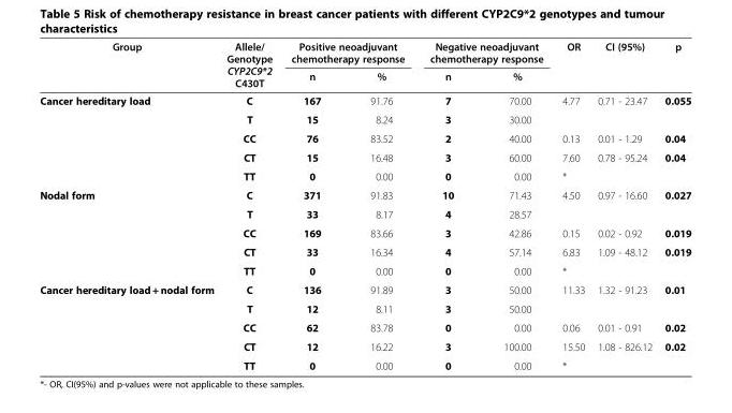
<table><thead><tr><td rowspan="2">Group</td><td rowspan="2">Allele/ Genotype CYP2C9*2 C430T</td><td colspan="2">Positive neoadjuvant chemotherapy response</td><td colspan="2">Negative neoadjuvant chemotherapy response</td><td rowspan="2">OR</td><td rowspan="2">CI (95%)</td><td rowspan="2">p</td></tr><tr><td>n</td><td>%</td><td>n</td><td>%</td></tr></thead><tbody><tr><td rowspan="5">Cancer hereditary load</td><td>C</td><td>167</td><td>91.76</td><td>7</td><td>70.00</td><td rowspan="2">4.77</td><td rowspan="2">0.71 - 23.47</td><td>0.055</td></tr><tr><td>T</td><td>15</td><td>8.24</td><td>3</td><td>30.00</td><td></td></tr><tr><td>CC</td><td>76</td><td>83.52</td><td>2</td><td>40.00</td><td>0.13</td><td>0.01 - 1.29</td><td>0.04</td></tr><tr><td>CT</td><td>15</td><td>16.48</td><td>3</td><td>60.00</td><td>7.60</td><td>0.78 - 95.24</td><td>0.04</td></tr><tr><td>TT</td><td>0</td><td>0.00</td><td>0</td><td>0.00</td><td>*</td><td></td><td></td></tr><tr><td rowspan="5">Nodal form</td><td>C</td><td>371</td><td>91.83</td><td>10</td><td>71.43</td><td rowspan="2">4.50</td><td rowspan="2">0.97 - 16.60</td><td>0.027</td></tr><tr><td>T</td><td>33</td><td>8.17</td><td>4</td><td>28.57</td><td></td></tr><tr><td>CC</td><td>169</td><td>83.66</td><td>3</td><td>42.86</td><td>0.15</td><td>0.02 - 0.92</td><td>0.019</td></tr><tr><td>CT</td><td>33</td><td>16.34</td><td>4</td><td>57.14</td><td>6.83</td><td>1.09 - 48.12</td><td>0.019</td></tr><tr><td>TT</td><td>0</td><td>0.00</td><td>0</td><td>0.00</td><td>*</td><td></td><td></td></tr><tr><td rowspan="5">Cancer hereditary load + nodal form</td><td>C</td><td>136</td><td>91.89</td><td>3</td><td>50.00</td><td rowspan="2">11.33</td><td rowspan="2">1.32 - 91.23</td><td>0.01</td></tr><tr><td>T</td><td>12</td><td>8.11</td><td>3</td><td>50.00</td><td></td></tr><tr><td>CC</td><td>62</td><td>83.78</td><td>0</td><td>0.00</td><td>0.06</td><td>0.01 - 0.91</td><td>0.02</td></tr><tr><td>CT</td><td>12</td><td>16.22</td><td>3</td><td>100.00</td><td>15.50</td><td>1.08 - 826.12</td><td>0.02</td></tr><tr><td>TT</td><td>0</td><td>0.00</td><td>0</td><td>0.00</td><td>*</td><td></td><td></td></tr></tbody></table>